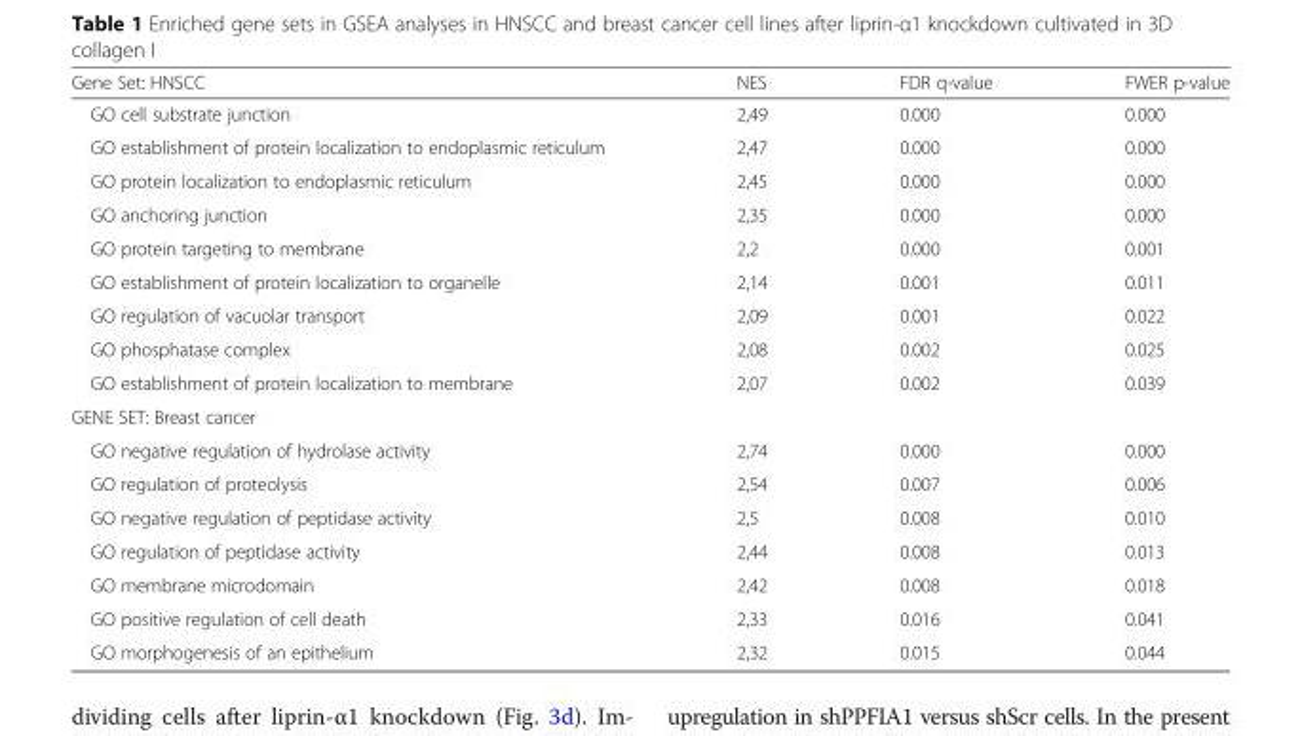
<table><thead><tr><td>Gene Set: HNSCC</td><td>NES</td><td>FDR q-value</td><td>FWER p-value</td></tr></thead><tbody><tr><td>GO cell substrate junction</td><td>2,49</td><td>0.000</td><td>0.000</td></tr><tr><td>GO establishment of protein localization to endoplasmic reticulum</td><td>2,47</td><td>0.000</td><td>0.000</td></tr><tr><td>GO protein localization to endoplasmic reticulum</td><td>2,45</td><td>0.000</td><td>0.000</td></tr><tr><td>GO anchoring junction</td><td>2,35</td><td>0.000</td><td>0.000</td></tr><tr><td>GO protein targeting to membrane</td><td>2,2</td><td>0.000</td><td>0.001</td></tr><tr><td>GO establishment of protein localization to organelle</td><td>2,14</td><td>0.001</td><td>0.011</td></tr><tr><td>GO regulation of vacuolar transport</td><td>2,09</td><td>0.001</td><td>0.022</td></tr><tr><td>GO phosphatase complex</td><td>2,08</td><td>0.002</td><td>0.025</td></tr><tr><td>GO establishment of protein localization to membrane</td><td>2,07</td><td>0.002</td><td>0.039</td></tr><tr><td colspan="4">GENE SET: Breast cancer</td></tr><tr><td>GO negative regulation of hydrolase activity</td><td>2,74</td><td>0.000</td><td>0.000</td></tr><tr><td>GO regulation of proteolysis</td><td>2,54</td><td>0.007</td><td>0.006</td></tr><tr><td>GO negative regulation of peptidase activity</td><td>2,5</td><td>0.008</td><td>0.010</td></tr><tr><td>GO regulation of peptidase activity</td><td>2,44</td><td>0.008</td><td>0.013</td></tr><tr><td>GO membrane microdomain</td><td>2,42</td><td>0.008</td><td>0.018</td></tr><tr><td>GO positive regulation of cell death</td><td>2,33</td><td>0.016</td><td>0.041</td></tr><tr><td>GO morphogenesis of an epithelium</td><td>2,32</td><td>0.015</td><td>0.044</td></tr></tbody></table>